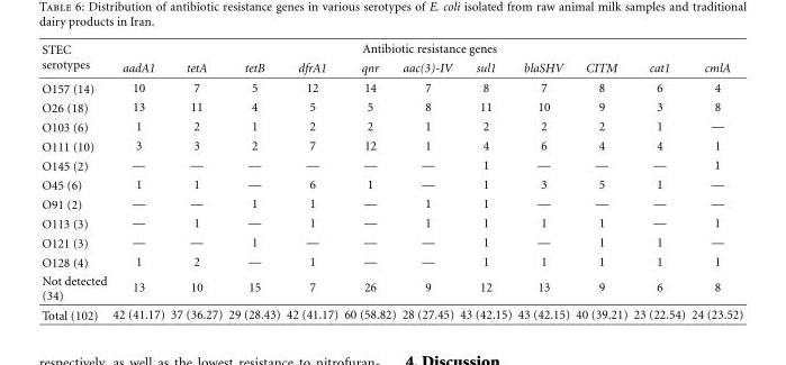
<table><thead><tr><td rowspan="2">STEC serotypes</td><td colspan="11">Antibiotic resistance genes</td></tr><tr><td>aadA1</td><td>tetA</td><td>tetB</td><td>dfrA1</td><td>qnr</td><td>aac(3)-IV</td><td>sul1</td><td>blaSHV</td><td>CITM</td><td>cat1</td><td>cmlA</td></tr></thead><tbody><tr><td>O157 (14)</td><td>10</td><td>7</td><td>5</td><td>12</td><td>14</td><td>7</td><td>8</td><td>7</td><td>8</td><td>6</td><td>4</td></tr><tr><td>O26 (18)</td><td>13</td><td>11</td><td>4</td><td>5</td><td>5</td><td>8</td><td>11</td><td>10</td><td>9</td><td>3</td><td>8</td></tr><tr><td>O103 (6)</td><td>1</td><td>2</td><td>1</td><td>2</td><td>2</td><td>1</td><td>2</td><td>2</td><td>2</td><td>1</td><td>—</td></tr><tr><td>O111 (10)</td><td>3</td><td>3</td><td>2</td><td>7</td><td>12</td><td>1</td><td>4</td><td>6</td><td>4</td><td>4</td><td>1</td></tr><tr><td>O145 (2)</td><td>—</td><td>—</td><td>—</td><td>—</td><td>—</td><td>—</td><td>1</td><td>—</td><td>—</td><td>—</td><td>1</td></tr><tr><td>O45 (6)</td><td>1</td><td>1</td><td>—</td><td>6</td><td>1</td><td>—</td><td>1</td><td>3</td><td>5</td><td>1</td><td>—</td></tr><tr><td>O91 (2)</td><td>—</td><td>—</td><td>1</td><td>1</td><td>—</td><td>1</td><td>1</td><td>—</td><td>—</td><td>—</td><td>—</td></tr><tr><td>O113 (3)</td><td>—</td><td>1</td><td>—</td><td>1</td><td>—</td><td>1</td><td>1</td><td>1</td><td>1</td><td>—</td><td>1</td></tr><tr><td>O121 (3)</td><td>—</td><td>—</td><td>1</td><td>—</td><td>—</td><td>—</td><td>1</td><td>—</td><td>1</td><td>1</td><td>—</td></tr><tr><td>O128 (4)</td><td>1</td><td>2</td><td>—</td><td>1</td><td>—</td><td>—</td><td>1</td><td>1</td><td>1</td><td>1</td><td>1</td></tr><tr><td>Not detected (34)</td><td>13</td><td>10</td><td>15</td><td>7</td><td>26</td><td>9</td><td>12</td><td>13</td><td>9</td><td>6</td><td>8</td></tr><tr><td>Total (102)</td><td>42 (41.17)</td><td>37 (36.27)</td><td>29 (28.43)</td><td>42 (41.17)</td><td>60 (58.82)</td><td>28 (27.45)</td><td>43 (42.15)</td><td>43 (42.15)</td><td>40 (39.21)</td><td>23 (22.54)</td><td>24 (23.52)</td></tr></tbody></table>